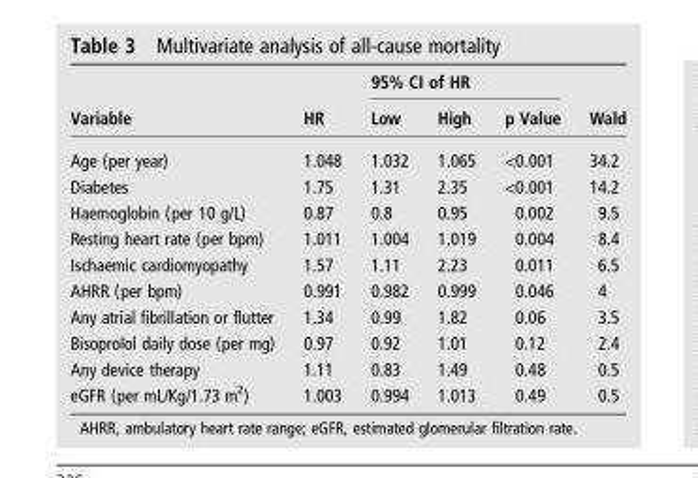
<table><thead><tr><td rowspan="2">Variable</td><td rowspan="2">HR</td><td colspan="3">95% CI of HR</td><td rowspan="2">Wald</td></tr><tr><td>Low</td><td>High</td><td>p Value</td></tr></thead><tbody><tr><td>Age (per year)</td><td>1.048</td><td>1.032</td><td>1.065</td><td>&lt;0.001</td><td>34.2</td></tr><tr><td>Diabetes</td><td>1.75</td><td>1.31</td><td>2.35</td><td>&lt;0.001</td><td>14.2</td></tr><tr><td>Haemoglobin (per 10 g/L)</td><td>0.87</td><td>0.8</td><td>0.95</td><td>0.002</td><td>9.5</td></tr><tr><td>Resting heart rate (per bpm)</td><td>1.011</td><td>1.004</td><td>1.019</td><td>0.004</td><td>8.4</td></tr><tr><td>Ischaemic cardiomyopathy</td><td>1.57</td><td>1.11</td><td>2.23</td><td>0.011</td><td>6.5</td></tr><tr><td>AHRR (per bpm)</td><td>0.991</td><td>0.982</td><td>0.999</td><td>0.046</td><td>4</td></tr><tr><td>Any atrial fibrillation or flutter</td><td>1.34</td><td>0.99</td><td>1.82</td><td>0.06</td><td>3.5</td></tr><tr><td>Bisoprolol daily dose (per mg)</td><td>0.97</td><td>0.92</td><td>1.01</td><td>0.12</td><td>2.4</td></tr><tr><td>Any device therapy</td><td>1.11</td><td>0.83</td><td>1.49</td><td>0.48</td><td>0.5</td></tr><tr><td>eGFR (per mL/Kg/1.73 m<sup>2</sup>)</td><td>1.003</td><td>0.994</td><td>1.013</td><td>0.49</td><td>0.5</td></tr></tbody></table>